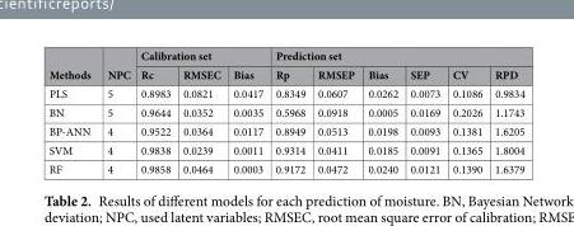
<table><thead><tr><td rowspan="2">Methods</td><td rowspan="2">NPC</td><td colspan="3">Calibration set</td><td colspan="6">Prediction set</td></tr><tr><td>Rc</td><td>RMSEC</td><td>Bias</td><td>Rp</td><td>RMSEP</td><td>Bias</td><td>SEP</td><td>CV</td><td>RPD</td></tr></thead><tbody><tr><td>PLS</td><td>5</td><td>0.8983</td><td>0.0821</td><td>0.0417</td><td>0.8349</td><td>0.0607</td><td>0.0262</td><td>0.0073</td><td>0.1086</td><td>0.9834</td></tr><tr><td>BN</td><td>5</td><td>0.9644</td><td>0.0352</td><td>0.0035</td><td>0.5968</td><td>0.0918</td><td>0.0005</td><td>0.0169</td><td>0.2026</td><td>1.1743</td></tr><tr><td>BP-ANN</td><td>4</td><td>0.9522</td><td>0.0364</td><td>0.0117</td><td>0.8949</td><td>0.0513</td><td>0.0198</td><td>0.0093</td><td>0.1381</td><td>1.6205</td></tr><tr><td>SVM</td><td>4</td><td>0.9838</td><td>0.0239</td><td>0.0011</td><td>0.9314</td><td>0.0411</td><td>0.0185</td><td>0.0091</td><td>0.1365</td><td>1.8004</td></tr><tr><td>RF</td><td>4</td><td>0.9858</td><td>0.0464</td><td>0.0003</td><td>0.9172</td><td>0.0472</td><td>0.0240</td><td>0.0121</td><td>0.1390</td><td>1.6379</td></tr></tbody></table>